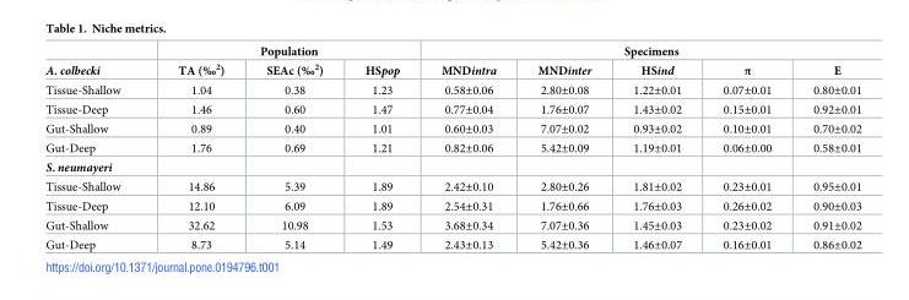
<table><thead><tr><td rowspan="2">A. colbecki</td><td colspan="3">Population</td><td colspan="5">Specimens</td></tr><tr><td>TA (‰<sup>2</sup>)</td><td>SEAc (‰<sup>2</sup>)</td><td>HSpop</td><td>MNDintra</td><td>MNDinter</td><td>HSind</td><td>π</td><td>E</td></tr></thead><tbody><tr><td>Tissue-Shallow</td><td>1.04</td><td>0.38</td><td>1.23</td><td>0.58±0.06</td><td>2.80±0.08</td><td>1.22±0.01</td><td>0.07±0.01</td><td>0.80±0.01</td></tr><tr><td>Tissue-Deep</td><td>1.46</td><td>0.60</td><td>1.47</td><td>0.77±0.04</td><td>1.76±0.07</td><td>1.43±0.02</td><td>0.15±0.01</td><td>0.92±0.01</td></tr><tr><td>Gut-Shallow</td><td>0.89</td><td>0.40</td><td>1.01</td><td>0.60±0.03</td><td>7.07±0.02</td><td>0.93±0.02</td><td>0.10±0.01</td><td>0.70±0.02</td></tr><tr><td>Gut-Deep</td><td>1.76</td><td>0.69</td><td>1.21</td><td>0.82±0.06</td><td>5.42±0.09</td><td>1.19±0.01</td><td>0.06±0.00</td><td>0.58±0.01</td></tr><tr><td colspan="9">S. neumayeri</td></tr><tr><td>Tissue-Shallow</td><td>14.86</td><td>5.39</td><td>1.89</td><td>2.42±0.10</td><td>2.80±0.26</td><td>1.81±0.02</td><td>0.23±0.01</td><td>0.95±0.01</td></tr><tr><td>Tissue-Deep</td><td>12.10</td><td>6.09</td><td>1.89</td><td>2.54±0.31</td><td>1.76±0.66</td><td>1.76±0.03</td><td>0.26±0.02</td><td>0.90±0.03</td></tr><tr><td>Gut-Shallow</td><td>32.62</td><td>10.98</td><td>1.53</td><td>3.68±0.34</td><td>7.07±0.36</td><td>1.45±0.03</td><td>0.23±0.02</td><td>0.91±0.02</td></tr><tr><td>Gut-Deep</td><td>8.73</td><td>5.14</td><td>1.49</td><td>2.43±0.13</td><td>5.42±0.36</td><td>1.46±0.07</td><td>0.16±0.01</td><td>0.86±0.02</td></tr></tbody></table>